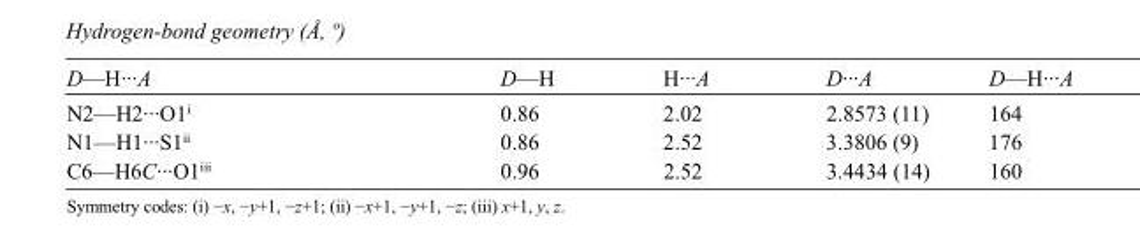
<table><tbody><tr><td>D—H···A</td><td>D—H</td><td>H···A</td><td>D···A</td><td>D—H···A</td></tr><tr><td>N2—H2···O1<sup>i</sup></td><td>0.86</td><td>2.02</td><td>2.8573 (11)</td><td>164</td></tr><tr><td>N1—H1···S1<sup>ii</sup></td><td>0.86</td><td>2.52</td><td>3.3806 (9)</td><td>176</td></tr><tr><td>C6—H6C···O1<sup>iii</sup></td><td>0.96</td><td>2.52</td><td>3.4434 (14)</td><td>160</td></tr></tbody></table>